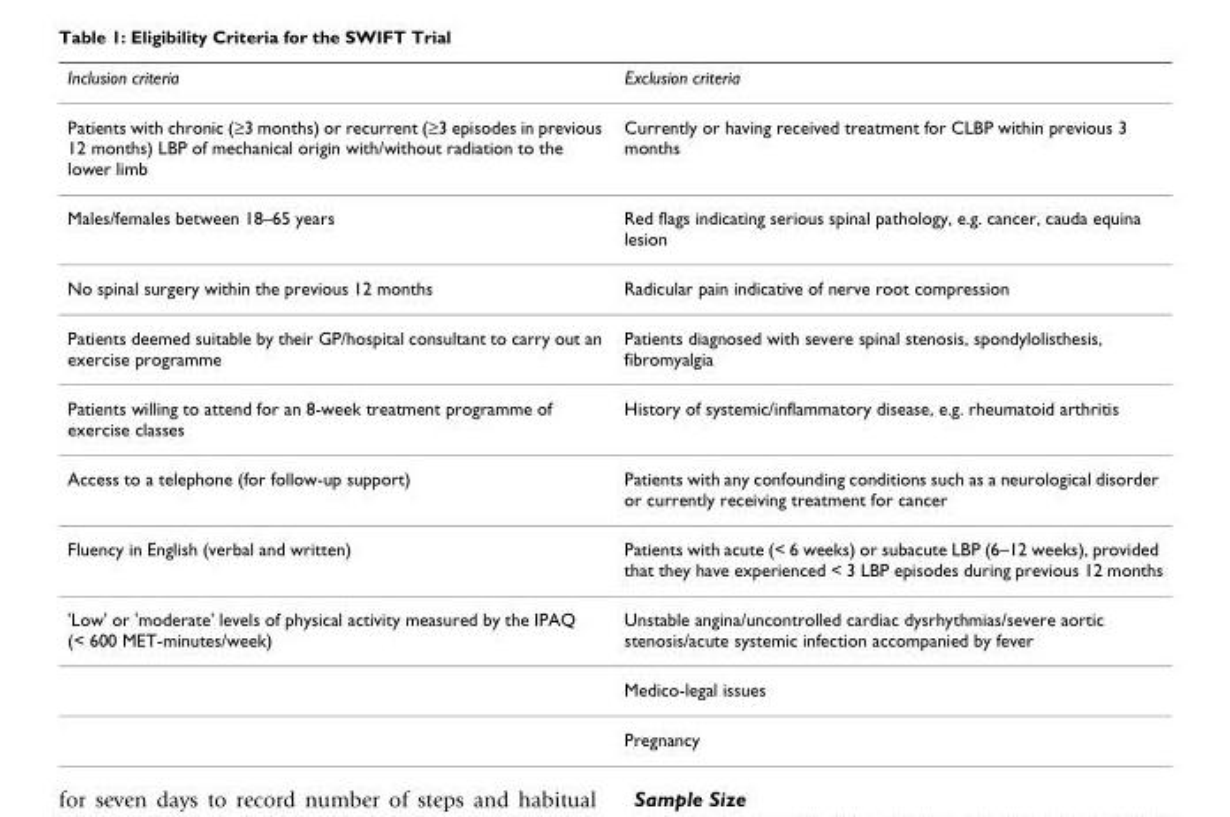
<table><thead><tr><td>Inclusion criteria</td><td>Exclusion criteria</td></tr></thead><tbody><tr><td>Patients with chronic (≥3 months) or recurrent (≥3 episodes in previous 12 months) LBP of mechanical origin with/without radiation to the lower limb</td><td>Currently or having received treatment for CLBP within previous 3 months</td></tr><tr><td>Males/females between 18–65 years</td><td>Red flags indicating serious spinal pathology, e.g. cancer, cauda equina lesion</td></tr><tr><td>No spinal surgery within the previous 12 months</td><td>Radicular pain indicative of nerve root compression</td></tr><tr><td>Patients deemed suitable by their GP/hospital consultant to carry out an exercise programme</td><td>Patients diagnosed with severe spinal stenosis, spondylolisthesis, fibromyalgia</td></tr><tr><td>Patients willing to attend for an 8-week treatment programme of exercise classes</td><td>History of systemic/inflammatory disease, e.g. rheumatoid arthritis</td></tr><tr><td>Access to a telephone (for follow-up support)</td><td>Patients with any confounding conditions such as a neurological disorder or currently receiving treatment for cancer</td></tr><tr><td>Fluency in English (verbal and written)</td><td>Patients with acute (&lt; 6 weeks) or subacute LBP (6–12 weeks), provided that they have experienced &lt; 3 LBP episodes during previous 12 months</td></tr><tr><td rowspan="3">&#x27;Low&#x27; or &#x27;moderate&#x27; levels of physical activity measured by the IPAQ (&lt; 600 MET-minutes/week)</td><td>Unstable angina/uncontrolled cardiac dysrhythmias/severe aortic stenosis/acute systemic infection accompanied by fever</td></tr><tr><td>Medico-legal issues</td></tr><tr><td>Pregnancy</td></tr></tbody></table>